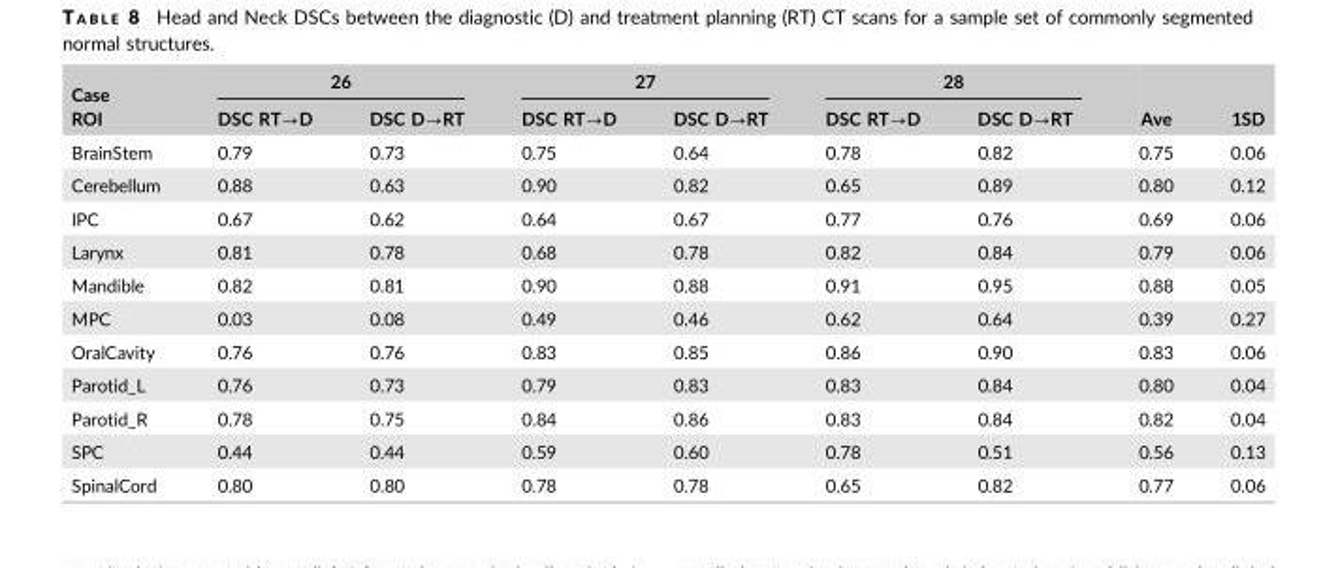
<table><thead><tr><td rowspan="2">Case ROI</td><td colspan="2">26</td><td colspan="2">27</td><td colspan="2">28</td><td rowspan="2">Ave</td><td rowspan="2">1SD</td></tr><tr><td>DSC RT→D</td><td>DSC D→RT</td><td>DSC RT→D</td><td>DSC D→RT</td><td>DSC RT→D</td><td>DSC D→RT</td></tr></thead><tbody><tr><td>BrainStem</td><td>0.79</td><td>0.73</td><td>0.75</td><td>0.64</td><td>0.78</td><td>0.82</td><td>0.75</td><td>0.06</td></tr><tr><td>Cerebellum</td><td>0.88</td><td>0.63</td><td>0.90</td><td>0.82</td><td>0.65</td><td>0.89</td><td>0.80</td><td>0.12</td></tr><tr><td>IPC</td><td>0.67</td><td>0.62</td><td>0.64</td><td>0.67</td><td>0.77</td><td>0.76</td><td>0.69</td><td>0.06</td></tr><tr><td>Larynx</td><td>0.81</td><td>0.78</td><td>0.68</td><td>0.78</td><td>0.82</td><td>0.84</td><td>0.79</td><td>0.06</td></tr><tr><td>Mandible</td><td>0.82</td><td>0.81</td><td>0.90</td><td>0.88</td><td>0.91</td><td>0.95</td><td>0.88</td><td>0.05</td></tr><tr><td>MPC</td><td>0.03</td><td>0.08</td><td>0.49</td><td>0.46</td><td>0.62</td><td>0.64</td><td>0.39</td><td>0.27</td></tr><tr><td>OralCavity</td><td>0.76</td><td>0.76</td><td>0.83</td><td>0.85</td><td>0.86</td><td>0.90</td><td>0.83</td><td>0.06</td></tr><tr><td>Parotid_L</td><td>0.76</td><td>0.73</td><td>0.79</td><td>0.83</td><td>0.83</td><td>0.84</td><td>0.80</td><td>0.04</td></tr><tr><td>Parotid_R</td><td>0.78</td><td>0.75</td><td>0.84</td><td>0.86</td><td>0.83</td><td>0.84</td><td>0.82</td><td>0.04</td></tr><tr><td>SPC</td><td>0.44</td><td>0.44</td><td>0.59</td><td>0.60</td><td>0.78</td><td>0.51</td><td>0.56</td><td>0.13</td></tr><tr><td>SpinalCord</td><td>0.80</td><td>0.80</td><td>0.78</td><td>0.78</td><td>0.65</td><td>0.82</td><td>0.77</td><td>0.06</td></tr></tbody></table>